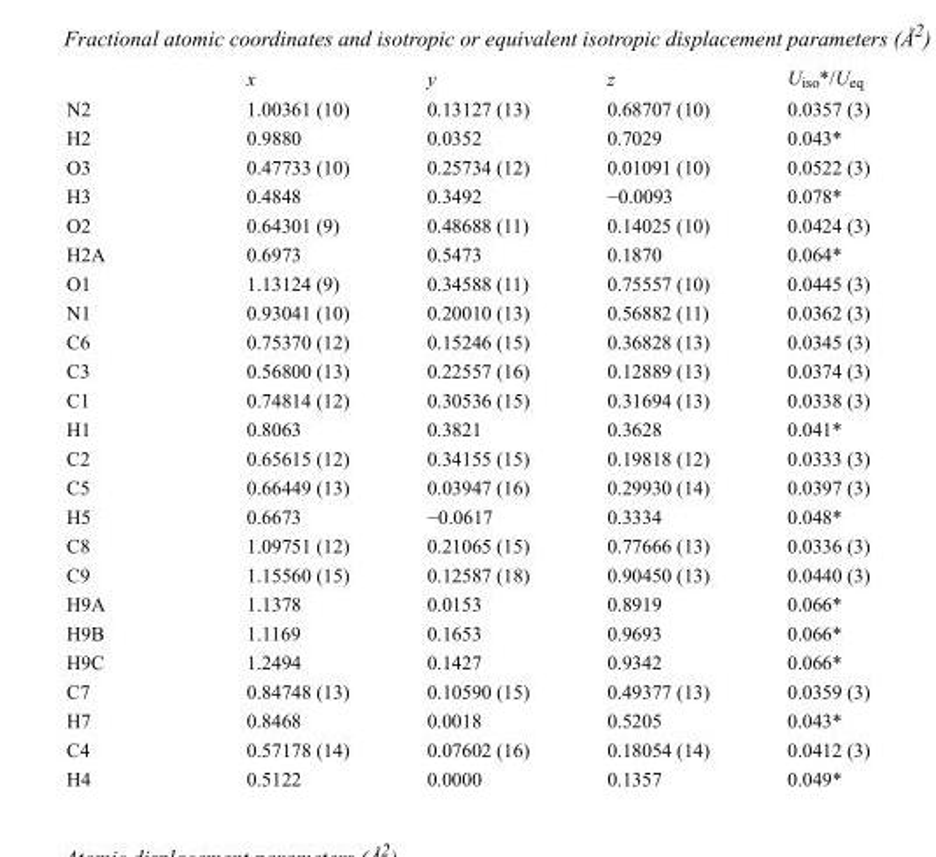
<table><thead><tr><td></td><td>x</td><td>y</td><td>z</td><td>U<sub>iso</sub>*/U<sub>eq</sub></td></tr></thead><tbody><tr><td>N2</td><td>1.00361 (10)</td><td>0.13127 (13)</td><td>0.68707 (10)</td><td>0.0357 (3)</td></tr><tr><td>H2</td><td>0.9880</td><td>0.0352</td><td>0.7029</td><td>0.043*</td></tr><tr><td>O3</td><td>0.47733 (10)</td><td>0.25734 (12)</td><td>0.01091 (10)</td><td>0.0522 (3)</td></tr><tr><td>H3</td><td>0.4848</td><td>0.3492</td><td>−0.0093</td><td>0.078*</td></tr><tr><td>O2</td><td>0.64301 (9)</td><td>0.48688 (11)</td><td>0.14025 (10)</td><td>0.0424 (3)</td></tr><tr><td>H2A</td><td>0.6973</td><td>0.5473</td><td>0.1870</td><td>0.064*</td></tr><tr><td>O1</td><td>1.13124 (9)</td><td>0.34588 (11)</td><td>0.75557 (10)</td><td>0.0445 (3)</td></tr><tr><td>N1</td><td>0.93041 (10)</td><td>0.20010 (13)</td><td>0.56882 (11)</td><td>0.0362 (3)</td></tr><tr><td>C6</td><td>0.75370 (12)</td><td>0.15246 (15)</td><td>0.36828 (13)</td><td>0.0345 (3)</td></tr><tr><td>C3</td><td>0.56800 (13)</td><td>0.22557 (16)</td><td>0.12889 (13)</td><td>0.0374 (3)</td></tr><tr><td>C1</td><td>0.74814 (12)</td><td>0.30536 (15)</td><td>0.31694 (13)</td><td>0.0338 (3)</td></tr><tr><td>H1</td><td>0.8063</td><td>0.3821</td><td>0.3628</td><td>0.041*</td></tr><tr><td>C2</td><td>0.65615 (12)</td><td>0.34155 (15)</td><td>0.19818 (12)</td><td>0.0333 (3)</td></tr><tr><td>C5</td><td>0.66449 (13)</td><td>0.03947 (16)</td><td>0.29930 (14)</td><td>0.0397 (3)</td></tr><tr><td>H5</td><td>0.6673</td><td>−0.0617</td><td>0.3334</td><td>0.048*</td></tr><tr><td>C8</td><td>1.09751 (12)</td><td>0.21065 (15)</td><td>0.77666 (13)</td><td>0.0336 (3)</td></tr><tr><td>C9</td><td>1.15560 (15)</td><td>0.12587 (18)</td><td>0.90450 (13)</td><td>0.0440 (3)</td></tr><tr><td>H9A</td><td>1.1378</td><td>0.0153</td><td>0.8919</td><td>0.066*</td></tr><tr><td>H9B</td><td>1.1169</td><td>0.1653</td><td>0.9693</td><td>0.066*</td></tr><tr><td>H9C</td><td>1.2494</td><td>0.1427</td><td>0.9342</td><td>0.066*</td></tr><tr><td>C7</td><td>0.84748 (13)</td><td>0.10590 (15)</td><td>0.49377 (13)</td><td>0.0359 (3)</td></tr><tr><td>H7</td><td>0.8468</td><td>0.0018</td><td>0.5205</td><td>0.043*</td></tr><tr><td>C4</td><td>0.57178 (14)</td><td>0.07602 (16)</td><td>0.18054 (14)</td><td>0.0412 (3)</td></tr><tr><td>H4</td><td>0.5122</td><td>0.0000</td><td>0.1357</td><td>0.049*</td></tr></tbody></table>